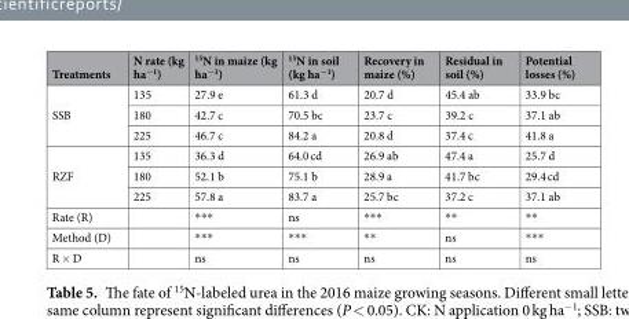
<table><thead><tr><td>Treatments</td><td>N rate (kg ha<sup>−1</sup>)</td><td><sup>15</sup>N in maize (kg ha<sup>−1</sup>)</td><td><sup>15</sup>N in soil (kg ha<sup>−1</sup>)</td><td>Recovery in maize (%)</td><td>Residual in soil (%)</td><td>Potential losses (%)</td></tr></thead><tbody><tr><td rowspan="3">SSB</td><td>135</td><td>27.9 e</td><td>61.3 d</td><td>20.7 d</td><td>45.4 ab</td><td>33.9 bc</td></tr><tr><td>180</td><td>42.7 c</td><td>70.5 bc</td><td>23.7 c</td><td>39.2 c</td><td>37.1 ab</td></tr><tr><td>225</td><td>46.7 c</td><td>84.2 a</td><td>20.8 d</td><td>37.4 c</td><td>41.8 a</td></tr><tr><td rowspan="3">RZF</td><td>135</td><td>36.3 d</td><td>64.0 cd</td><td>26.9 ab</td><td>47.4 a</td><td>25.7 d</td></tr><tr><td>180</td><td>52.1 b</td><td>75.1 b</td><td>28.9 a</td><td>41.7 bc</td><td>29.4 cd</td></tr><tr><td>225</td><td>57.8 a</td><td>83.7 a</td><td>25.7 bc</td><td>37.2 c</td><td>37.1 ab</td></tr><tr><td>Rate (R)</td><td></td><td>***</td><td>ns</td><td>***</td><td>**</td><td>**</td></tr><tr><td>Method (D)</td><td></td><td>***</td><td>***</td><td>**</td><td>ns</td><td>***</td></tr><tr><td>R × D</td><td></td><td>ns</td><td>ns</td><td>ns</td><td>ns</td><td>ns</td></tr></tbody></table>